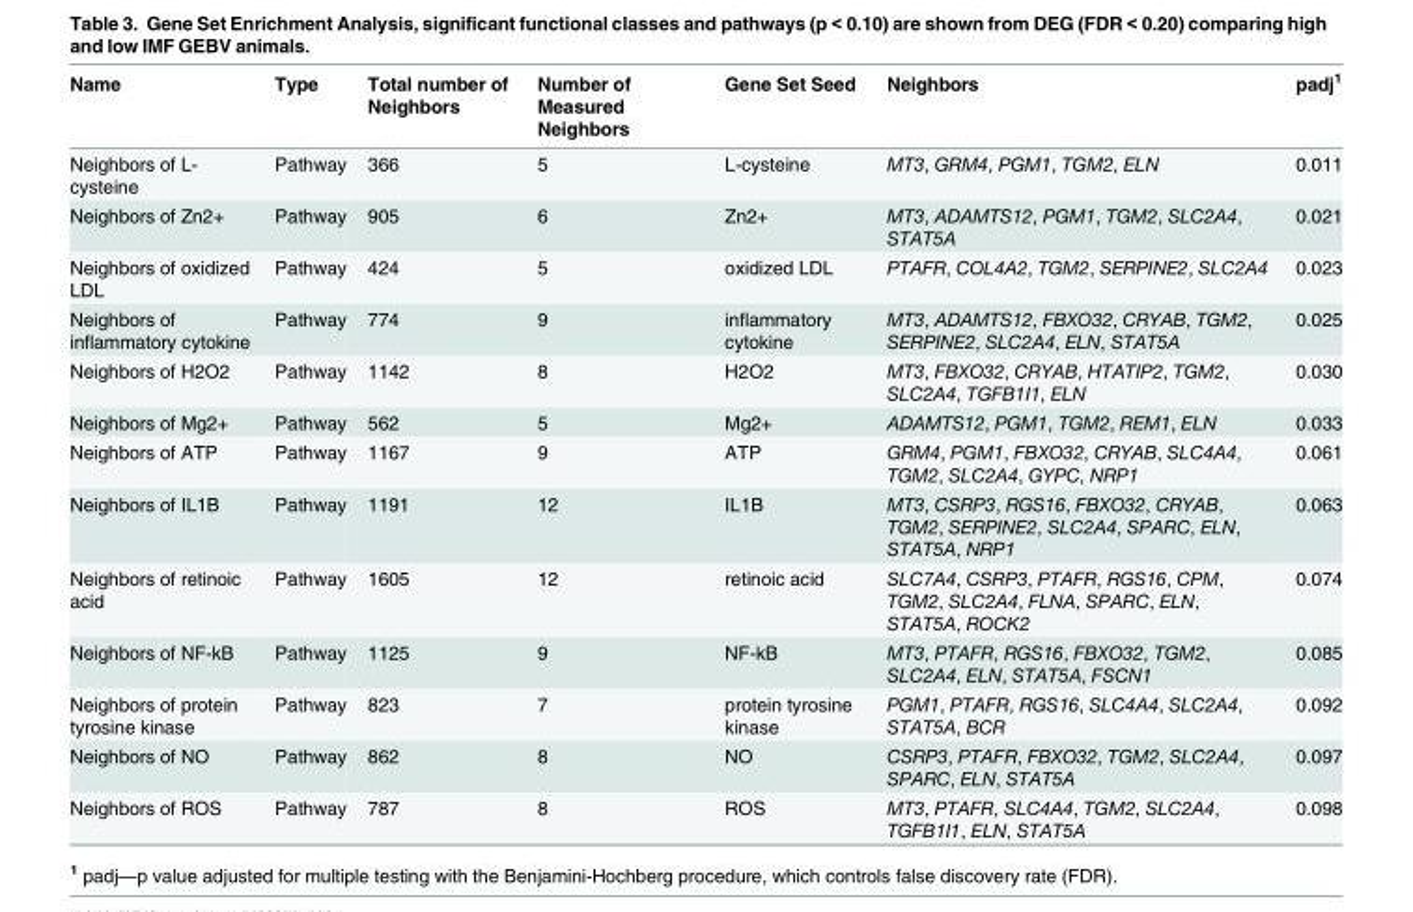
<table><thead><tr><td>Name</td><td>Type</td><td>Total number of Neighbors</td><td>Number of Measured Neighbors</td><td>Gene Set Seed</td><td>Neighbors</td><td>padj<sup>1</sup></td></tr></thead><tbody><tr><td>Neighbors of L- cysteine</td><td>Pathway</td><td>366</td><td>5</td><td>L-cysteine</td><td>MT3, GRM4, PGM1, TGM2, ELN</td><td>0.011</td></tr><tr><td>Neighbors of Zn2+</td><td>Pathway</td><td>905</td><td>6</td><td>Zn2+</td><td>MT3, ADAMTS12, PGM1, TGM2, SLC2A4, STAT5A</td><td>0.021</td></tr><tr><td>Neighbors of oxidized LDL</td><td>Pathway</td><td>424</td><td>5</td><td>oxidized LDL</td><td>PTAFR, COL4A2, TGM2, SERPINE2, SLC2A4</td><td>0.023</td></tr><tr><td>Neighbors of inflammatory cytokine</td><td>Pathway</td><td>774</td><td>9</td><td>inflammatory cytokine</td><td>MT3, ADAMTS12, FBXO32, CRYAB, TGM2, SERPINE2, SLC2A4, ELN, STAT5A</td><td>0.025</td></tr><tr><td>Neighbors of H2O2</td><td>Pathway</td><td>1142</td><td>8</td><td>H2O2</td><td>MT3, FBXO32, CRYAB, HTATIP2, TGM2, SLC2A4, TGFB1I1, ELN</td><td>0.030</td></tr><tr><td>Neighbors of Mg2+</td><td>Pathway</td><td>562</td><td>5</td><td>Mg2+</td><td>ADAMTS12, PGM1, TGM2, REM1, ELN</td><td>0.033</td></tr><tr><td>Neighbors of ATP</td><td>Pathway</td><td>1167</td><td>9</td><td>ATP</td><td>GRM4, PGM1, FBXO32, CRYAB, SLC4A4, TGM2, SLC2A4, GYPC, NRP1</td><td>0.061</td></tr><tr><td>Neighbors of IL1B</td><td>Pathway</td><td>1191</td><td>12</td><td>IL1B</td><td>MT3, CSRP3, RGS16, FBXO32, CRYAB, TGM2, SERPINE2, SLC2A4, SPARC, ELN, STAT5A, NRP1</td><td>0.063</td></tr><tr><td>Neighbors of retinoic acid</td><td>Pathway</td><td>1605</td><td>12</td><td>retinoic acid</td><td>SLC7A4, CSRP3, PTAFR, RGS16, CPM, TGM2, SLC2A4, FLNA, SPARC, ELN, STAT5A, ROCK2</td><td>0.074</td></tr><tr><td>Neighbors of NF-kB</td><td>Pathway</td><td>1125</td><td>9</td><td>NF-kB</td><td>MT3, PTAFR, RGS16, FBXO32, TGM2, SLC2A4, ELN, STAT5A, FSCN1</td><td>0.085</td></tr><tr><td>Neighbors of protein tyrosine kinase</td><td>Pathway</td><td>823</td><td>7</td><td>protein tyrosine kinase</td><td>PGM1, PTAFR, RGS16, SLC4A4, SLC2A4, STAT5A, BCR</td><td>0.092</td></tr><tr><td>Neighbors of NO</td><td>Pathway</td><td>862</td><td>8</td><td>NO</td><td>CSRP3, PTAFR, FBXO32, TGM2, SLC2A4, SPARC, ELN, STAT5A</td><td>0.097</td></tr><tr><td>Neighbors of ROS</td><td>Pathway</td><td>787</td><td>8</td><td>ROS</td><td>MT3, PTAFR, SLC4A4, TGM2, SLC2A4, TGFB1I1, ELN, STAT5A</td><td>0.098</td></tr></tbody></table>